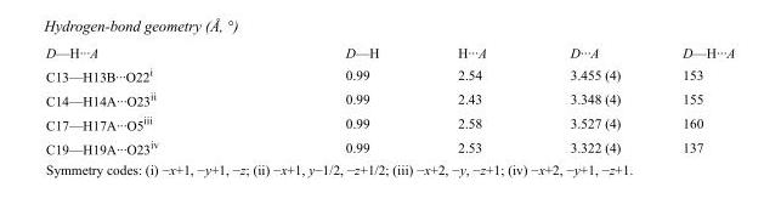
<table><tbody><tr><td>D—H···A</td><td>D—H</td><td>H···A</td><td>D···A</td><td>D—H···A</td></tr><tr><td>C13—H13B···O22<sup>i</sup></td><td>0.99</td><td>2.54</td><td>3.455 (4)</td><td>153</td></tr><tr><td>C14—H14A···O23<sup>ii</sup></td><td>0.99</td><td>2.43</td><td>3.348 (4)</td><td>155</td></tr><tr><td>C17—H17A···O5<sup>iii</sup></td><td>0.99</td><td>2.58</td><td>3.527 (4)</td><td>160</td></tr><tr><td>C19—H19A···O23<sup>iv</sup></td><td>0.99</td><td>2.53</td><td>3.322 (4)</td><td>137</td></tr></tbody></table>